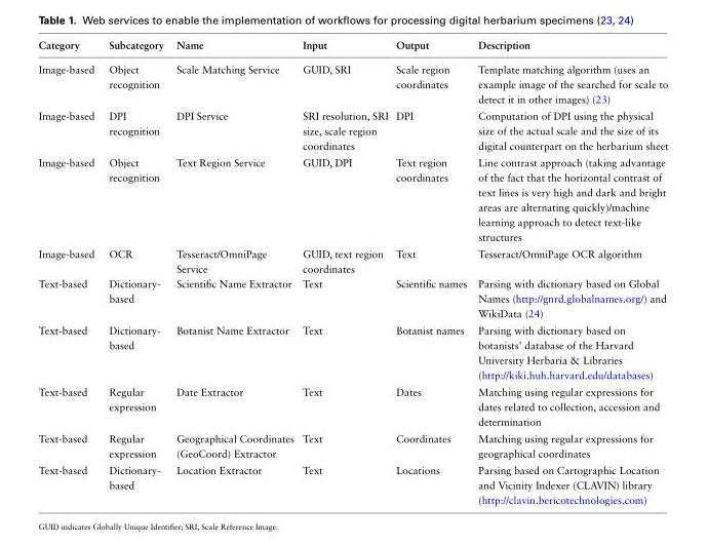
<table><thead><tr><td>Category</td><td>Subcategory</td><td>Name</td><td>Input</td><td>Output</td><td>Description</td></tr></thead><tbody><tr><td>Image-based</td><td>Object recognition</td><td>Scale Matching Service</td><td>GUID, SRI</td><td>Scale region coordinates</td><td>Template matching algorithm (uses an example image of the searched for scale to detect it in other images) (23)</td></tr><tr><td>Image-based</td><td>DPI recognition</td><td>DPI Service</td><td>SRI resolution, SRI size, scale region coordinates</td><td>DPI</td><td>Computation of DPI using the physical size of the actual scale and the size of its digital counterpart on the herbarium sheet</td></tr><tr><td>Image-based</td><td>Object recognition</td><td>Text Region Service</td><td>GUID, DPI</td><td>Text region coordinates</td><td>Line contrast approach (taking advantage of the fact that the horizontal contrast of text lines is very high and dark and bright areas are alternating quickly)/machine learning approach to detect text-like structures</td></tr><tr><td>Image-based</td><td>OCR</td><td>Tesseract/OmniPage Service</td><td>GUID, text region coordinates</td><td>Text</td><td>Tesseract/OmniPage OCR algorithm</td></tr><tr><td>Text-based</td><td>Dictionary- based</td><td>Scientific Name Extractor</td><td>Text</td><td>Scientific names</td><td>Parsing with dictionary based on Global Names (http://gnrd.globalnames.org/) and WikiData (24)</td></tr><tr><td>Text-based</td><td>Dictionary- based</td><td>Botanist Name Extractor</td><td>Text</td><td>Botanist names</td><td>Parsing with dictionary based on botanists’ database of the Harvard University Herbaria &amp; Libraries (http://kiki.huh.harvard.edu/databases)</td></tr><tr><td>Text-based</td><td>Regular expression</td><td>Date Extractor</td><td>Text</td><td>Dates</td><td>Matching using regular expressions for dates related to collection, accession and determination</td></tr><tr><td>Text-based</td><td>Regular expression</td><td>Geographical Coordinates (GeoCoord) Extractor</td><td>Text</td><td>Coordinates</td><td>Matching using regular expressions for geographical coordinates</td></tr><tr><td>Text-based</td><td>Dictionary- based</td><td>Location Extractor</td><td>Text</td><td>Locations</td><td>Parsing based on Cartographic Location and Vicinity Indexer (CLAVIN) library (http://clavin.bericotechnologies.com)</td></tr></tbody></table>